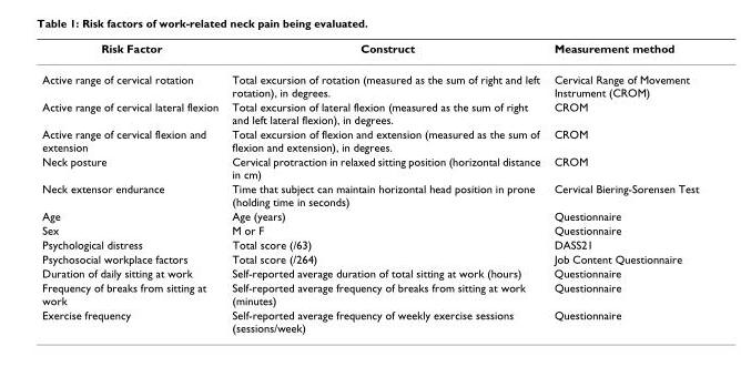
<table><thead><tr><td>Risk Factor</td><td>Construct</td><td>Measurement method</td></tr></thead><tbody><tr><td>Active range of cervical rotation</td><td>Total excursion of rotation (measured as the sum of right and left rotation), in degrees.</td><td>Cervical Range of Movement Instrument (CROM)</td></tr><tr><td>Active range of cervical lateral flexion</td><td>Total excursion of lateral flexion (measured as the sum of right and left lateral flexion), in degrees.</td><td>CROM</td></tr><tr><td>Active range of cervical flexion and extension</td><td>Total excursion of flexion and extension (measured as the sum of flexion and extension), in degrees.</td><td>CROM</td></tr><tr><td>Neck posture</td><td>Cervical protraction in relaxed sitting position (horizontal distance in cm)</td><td>CROM</td></tr><tr><td>Neck extensor endurance</td><td>Time that subject can maintain horizontal head position in prone (holding time in seconds)</td><td>Cervical Biering-Sorensen Test</td></tr><tr><td>Age</td><td>Age (years)</td><td>Questionnaire</td></tr><tr><td>Sex</td><td>M or F</td><td>Questionnaire</td></tr><tr><td>Psychological distress</td><td>Total score (/63)</td><td>DASS21</td></tr><tr><td>Psychosocial workplace factors</td><td>Total score (/264)</td><td>Job Content Questionnaire</td></tr><tr><td>Duration of daily sitting at work</td><td>Self-reported average duration of total sitting at work (hours)</td><td>Questionnaire</td></tr><tr><td>Frequency of breaks from sitting at work</td><td>Self-reported average frequency of breaks from sitting at work (minutes)</td><td>Questionnaire</td></tr><tr><td>Exercise frequency</td><td>Self-reported average frequency of weekly exercise sessions (sessions/week)</td><td>Questionnaire</td></tr></tbody></table>